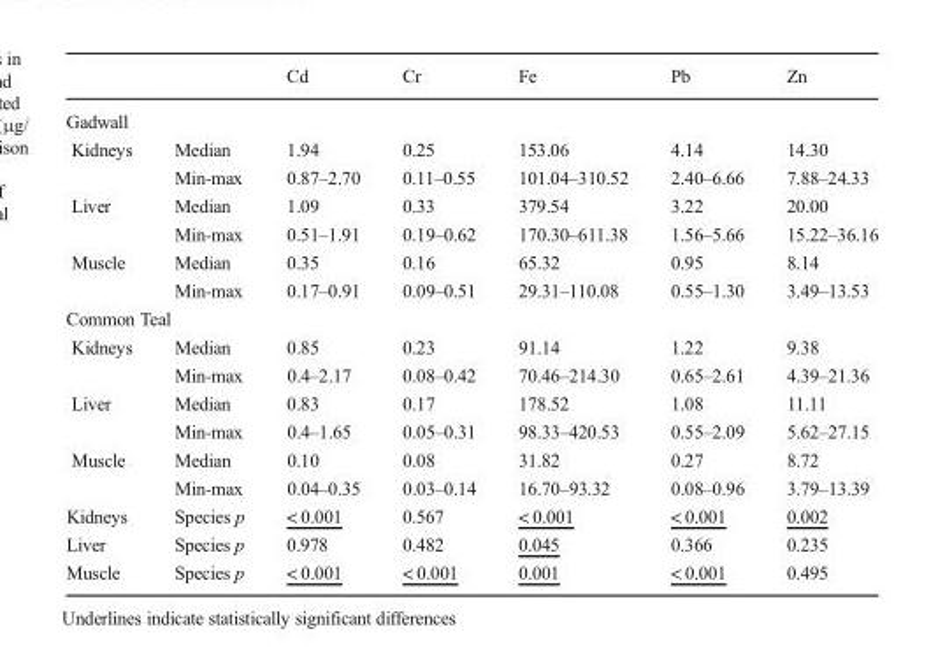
<table><thead><tr><td></td><td></td><td>Cd</td><td>Cr</td><td>Fe</td><td>Pb</td><td>Zn</td></tr></thead><tbody><tr><td colspan="7">Gadwall</td></tr><tr><td rowspan="2">Kidneys</td><td>Median</td><td>1.94</td><td>0.25</td><td>153.06</td><td>4.14</td><td>14.30</td></tr><tr><td>Min-max</td><td>0.87–2.70</td><td>0.11–0.55</td><td>101.04–310.52</td><td>2.40–6.66</td><td>7.88–24.33</td></tr><tr><td rowspan="2">Liver</td><td>Median</td><td>1.09</td><td>0.33</td><td>379.54</td><td>3.22</td><td>20.00</td></tr><tr><td>Min-max</td><td>0.51–1.91</td><td>0.19–0.62</td><td>170.30–611.38</td><td>1.56–5.66</td><td>15.22–36.16</td></tr><tr><td rowspan="2">Muscle</td><td>Median</td><td>0.35</td><td>0.16</td><td>65.32</td><td>0.95</td><td>8.14</td></tr><tr><td>Min-max</td><td>0.17–0.91</td><td>0.09–0.51</td><td>29.31–110.08</td><td>0.55–1.30</td><td>3.49–13.53</td></tr><tr><td colspan="7">Common Teal</td></tr><tr><td rowspan="2">Kidneys</td><td>Median</td><td>0.85</td><td>0.23</td><td>91.14</td><td>1.22</td><td>9.38</td></tr><tr><td>Min-max</td><td>0.4–2.17</td><td>0.08–0.42</td><td>70.46–214.30</td><td>0.65–2.61</td><td>4.39–21.36</td></tr><tr><td rowspan="2">Liver</td><td>Median</td><td>0.83</td><td>0.17</td><td>178.52</td><td>1.08</td><td>11.11</td></tr><tr><td>Min-max</td><td>0.4–1.65</td><td>0.05–0.31</td><td>98.33–420.53</td><td>0.55–2.09</td><td>5.62–27.15</td></tr><tr><td rowspan="2">Muscle</td><td>Median</td><td>0.10</td><td>0.08</td><td>31.82</td><td>0.27</td><td>8.72</td></tr><tr><td>Min-max</td><td>0.04–0.35</td><td>0.03–0.14</td><td>16.70–93.32</td><td>0.08–0.96</td><td>3.79–13.39</td></tr><tr><td>Kidneys</td><td>Species p</td><td>&lt; 0.001</td><td>0.567</td><td>&lt; 0.001</td><td>&lt; 0.001</td><td>0.002</td></tr><tr><td>Liver</td><td>Species p</td><td>0.978</td><td>0.482</td><td>0.045</td><td>0.366</td><td>0.235</td></tr><tr><td>Muscle</td><td>Species p</td><td>&lt; 0.001</td><td>&lt; 0.001</td><td>0.001</td><td>&lt; 0.001</td><td>0.495</td></tr></tbody></table>